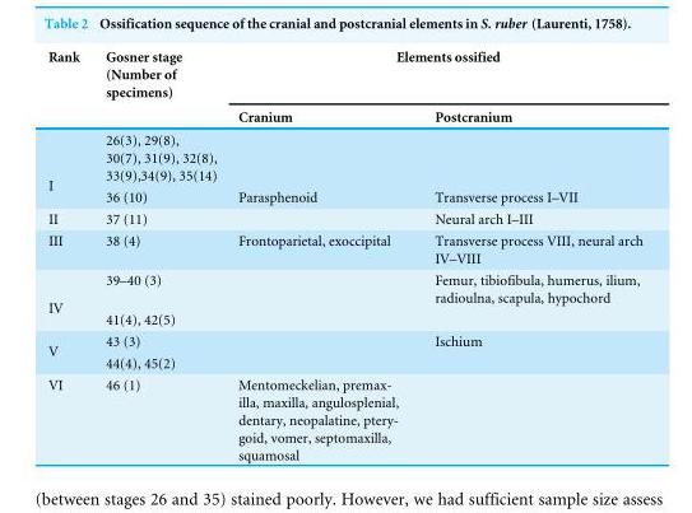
<table><thead><tr><td rowspan="2">Rank</td><td rowspan="2">Gosner stage (Number of specimens)</td><td colspan="2">Elements ossified</td></tr><tr><td>Cranium</td><td>Postcranium</td></tr></thead><tbody><tr><td rowspan="2">I</td><td>26(3), 29(8), 30(7), 31(9), 32(8), 33(9),34(9), 35(14)</td><td></td><td></td></tr><tr><td>36 (10)</td><td>Parasphenoid</td><td>Transverse process I–VII</td></tr><tr><td>II</td><td>37 (11)</td><td></td><td>Neural arch I–III</td></tr><tr><td>III</td><td>38 (4)</td><td>Frontoparietal, exoccipital</td><td>Transverse process VIII, neural arch IV–VIII</td></tr><tr><td rowspan="2">IV</td><td>39–40 (3)</td><td></td><td>Femur, tibiofibula, humerus, ilium, radioulna, scapula, hypochord</td></tr><tr><td>41(4), 42(5)</td><td></td><td></td></tr><tr><td rowspan="2">V</td><td>43 (3)</td><td></td><td>Ischium</td></tr><tr><td>44(4), 45(2)</td><td></td><td></td></tr><tr><td>VI</td><td>46 (1)</td><td>Mentomeckelian, premax- illa, maxilla, angulosplenial, dentary, neopalatine, ptery- goid, vomer, septomaxilla, squamosal</td><td></td></tr></tbody></table>